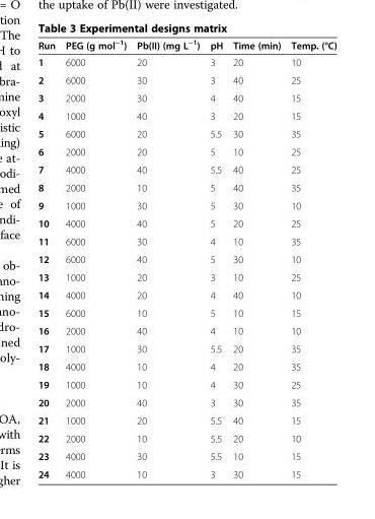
<table><thead><tr><td>Run</td><td>PEG (g mol<sup>−1</sup>)</td><td>Pb(II) (mg L<sup>−1</sup>)</td><td>pH</td><td>Time (min)</td><td>Temp. (°C)</td></tr></thead><tbody><tr><td>1</td><td>6000</td><td>20</td><td>3</td><td>20</td><td>10</td></tr><tr><td>2</td><td>6000</td><td>30</td><td>3</td><td>40</td><td>25</td></tr><tr><td>3</td><td>2000</td><td>30</td><td>4</td><td>40</td><td>15</td></tr><tr><td>4</td><td>1000</td><td>40</td><td>3</td><td>20</td><td>15</td></tr><tr><td>5</td><td>6000</td><td>20</td><td>5.5</td><td>30</td><td>35</td></tr><tr><td>6</td><td>2000</td><td>20</td><td>5</td><td>10</td><td>25</td></tr><tr><td>7</td><td>4000</td><td>40</td><td>5.5</td><td>40</td><td>25</td></tr><tr><td>8</td><td>2000</td><td>10</td><td>5</td><td>40</td><td>35</td></tr><tr><td>9</td><td>1000</td><td>30</td><td>5</td><td>30</td><td>10</td></tr><tr><td>10</td><td>4000</td><td>40</td><td>5</td><td>20</td><td>25</td></tr><tr><td>11</td><td>6000</td><td>30</td><td>4</td><td>10</td><td>35</td></tr><tr><td>12</td><td>6000</td><td>40</td><td>5</td><td>30</td><td>10</td></tr><tr><td>13</td><td>1000</td><td>20</td><td>3</td><td>10</td><td>25</td></tr><tr><td>14</td><td>4000</td><td>20</td><td>4</td><td>40</td><td>10</td></tr><tr><td>15</td><td>6000</td><td>10</td><td>5</td><td>10</td><td>15</td></tr><tr><td>16</td><td>2000</td><td>40</td><td>4</td><td>10</td><td>10</td></tr><tr><td>17</td><td>1000</td><td>30</td><td>5.5</td><td>20</td><td>35</td></tr><tr><td>18</td><td>4000</td><td>10</td><td>4</td><td>20</td><td>35</td></tr><tr><td>19</td><td>1000</td><td>10</td><td>4</td><td>30</td><td>25</td></tr><tr><td>20</td><td>2000</td><td>40</td><td>3</td><td>30</td><td>35</td></tr><tr><td>21</td><td>1000</td><td>20</td><td>5.5</td><td>40</td><td>15</td></tr><tr><td>22</td><td>2000</td><td>10</td><td>5.5</td><td>20</td><td>10</td></tr><tr><td>23</td><td>4000</td><td>30</td><td>5.5</td><td>10</td><td>15</td></tr><tr><td>24</td><td>4000</td><td>10</td><td>3</td><td>30</td><td>15</td></tr></tbody></table>